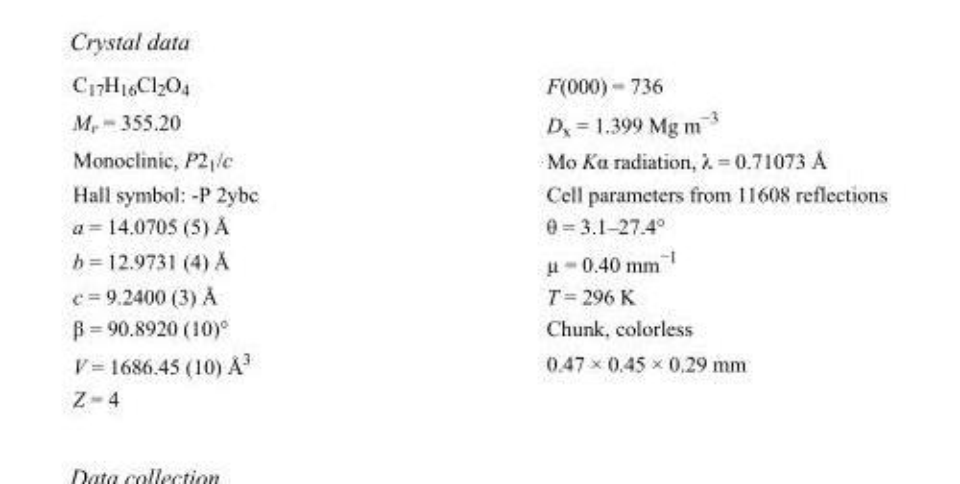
<table><tbody><tr><td>C<sub>17</sub>H<sub>16</sub>Cl<sub>2</sub>O<sub>4</sub></td><td>F(000) = 736</td></tr><tr><td>M<sub>r</sub> = 355.20</td><td>D<sub>x</sub> = 1.399 Mg m<sup>−3</sup></td></tr><tr><td>Monoclinic, P2<sub>1</sub>/c</td><td>Mo Kα radiation, λ = 0.71073 Å</td></tr><tr><td>Hall symbol: -P 2ybc</td><td>Cell parameters from 11608 reflections</td></tr><tr><td>a = 14.0705 (5) Å</td><td>θ = 3.1–27.4°</td></tr><tr><td>b = 12.9731 (4) Å</td><td>µ = 0.40 mm<sup>−1</sup></td></tr><tr><td>c = 9.2400 (3) Å</td><td>T = 296 K</td></tr><tr><td>β = 90.8920 (10)°</td><td>Chunk, colorless</td></tr><tr><td>V = 1686.45 (10) Å<sup>3</sup></td><td>0.47 × 0.45 × 0.29 mm</td></tr><tr><td>Z = 4</td><td></td></tr></tbody></table>